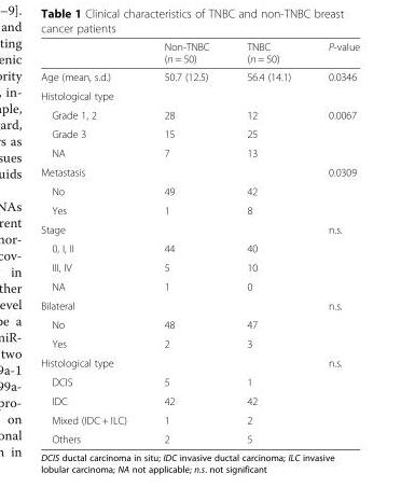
<table><thead><tr><td></td><td>Non-TNBC (n = 50)</td><td>TNBC (n = 50)</td><td>P-value</td></tr></thead><tbody><tr><td>Age (mean, s.d.)</td><td>50.7 (12.5)</td><td>56.4 (14.1)</td><td>0.0346</td></tr><tr><td colspan="4">Histological type</td></tr><tr><td>Grade 1, 2</td><td>28</td><td>12</td><td>0.0067</td></tr><tr><td>Grade 3</td><td>15</td><td>25</td><td rowspan="2"></td></tr><tr><td>NA</td><td>7</td><td>13</td></tr><tr><td>Metastasis</td><td></td><td></td><td>0.0309</td></tr><tr><td>No</td><td>49</td><td>42</td><td></td></tr><tr><td>Yes</td><td>1</td><td>8</td><td></td></tr><tr><td>Stage</td><td></td><td></td><td>n.s.</td></tr><tr><td>0, I, II</td><td>44</td><td>40</td><td></td></tr><tr><td>III, IV</td><td>5</td><td>10</td><td rowspan="2"></td></tr><tr><td>NA</td><td>1</td><td>0</td></tr><tr><td>Bilateral</td><td></td><td></td><td>n.s.</td></tr><tr><td>No</td><td>48</td><td>47</td><td></td></tr><tr><td>Yes</td><td>2</td><td>3</td><td></td></tr><tr><td>Histological type</td><td></td><td></td><td>n.s.</td></tr><tr><td>DCIS</td><td>5</td><td>1</td><td></td></tr><tr><td>IDC</td><td>42</td><td>42</td><td></td></tr><tr><td>Mixed (IDC + ILC)</td><td>1</td><td>2</td><td></td></tr><tr><td>Others</td><td>2</td><td>5</td><td></td></tr></tbody></table>